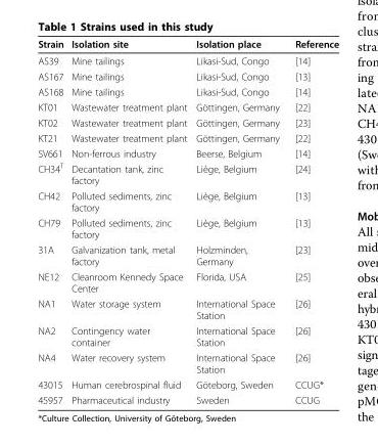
<table><thead><tr><td>Strain</td><td>Isolation site</td><td>Isolation place</td><td>Reference</td></tr></thead><tbody><tr><td>AS39</td><td>Mine tailings</td><td>Likasi-Sud, Congo</td><td>[14]</td></tr><tr><td>AS167</td><td>Mine tailings</td><td>Likasi-Sud, Congo</td><td>[13]</td></tr><tr><td>AS168</td><td>Mine tailings</td><td>Likasi-Sud, Congo</td><td>[14]</td></tr><tr><td>KT01</td><td>Wastewater treatment plant</td><td>Göttingen, Germany</td><td>[22]</td></tr><tr><td>KT02</td><td>Wastewater treatment plant</td><td>Göttingen, Germany</td><td>[23]</td></tr><tr><td>KT21</td><td>Wastewater treatment plant</td><td>Göttingen, Germany</td><td>[22]</td></tr><tr><td>SV661</td><td>Non-ferrous industry</td><td>Beerse, Belgium</td><td>[14]</td></tr><tr><td>CH34<sup>T</sup></td><td>Decantation tank, zinc factory</td><td>Liège, Belgium</td><td>[24]</td></tr><tr><td>CH42</td><td>Polluted sediments, zinc factory</td><td>Liège, Belgium</td><td>[13]</td></tr><tr><td>CH79</td><td>Polluted sediments, zinc factory</td><td>Liège, Belgium</td><td>[13]</td></tr><tr><td>31A</td><td>Galvanization tank, metal factory</td><td>Holzminden, Germany</td><td>[23]</td></tr><tr><td>NE12</td><td>Cleanroom Kennedy Space Center</td><td>Florida, USA</td><td>[25]</td></tr><tr><td>NA1</td><td>Water storage system</td><td>International Space Station</td><td>[26]</td></tr><tr><td>NA2</td><td>Contingency water container</td><td>International Space Station</td><td>[26]</td></tr><tr><td>NA4</td><td>Water recovery system</td><td>International Space Station</td><td>[26]</td></tr><tr><td>43015</td><td>Human cerebrospinal fluid</td><td>Göteborg, Sweden</td><td>CCUG*</td></tr><tr><td>45957</td><td>Pharmaceutical industry</td><td>Sweden</td><td>CCUG</td></tr></tbody></table>